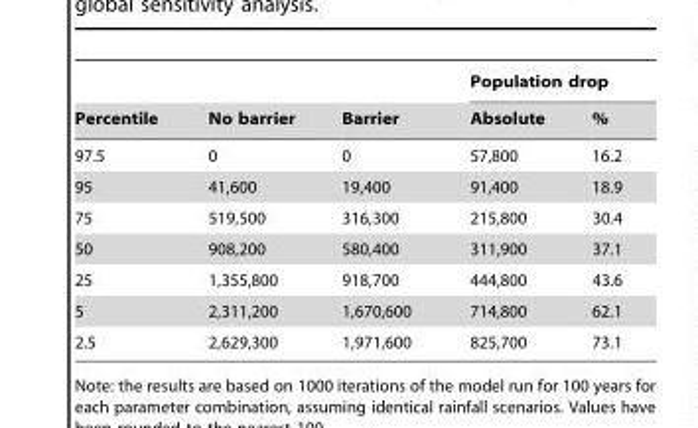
<table><thead><tr><td rowspan="2">Percentile</td><td rowspan="2">No barrier</td><td rowspan="2">Barrier</td><td colspan="2">Population drop</td></tr><tr><td>Absolute</td><td>%</td></tr></thead><tbody><tr><td>97.5</td><td>0</td><td>0</td><td>57,800</td><td>16.2</td></tr><tr><td>95</td><td>41,600</td><td>19,400</td><td>91,400</td><td>18.9</td></tr><tr><td>75</td><td>519,500</td><td>316,300</td><td>215,800</td><td>30.4</td></tr><tr><td>50</td><td>908,200</td><td>580,400</td><td>311,900</td><td>37.1</td></tr><tr><td>25</td><td>1,355,800</td><td>918,700</td><td>444,800</td><td>43.6</td></tr><tr><td>5</td><td>2,311,200</td><td>1,670,600</td><td>714,800</td><td>62.1</td></tr><tr><td>2.5</td><td>2,629,300</td><td>1,971,600</td><td>825,700</td><td>73.1</td></tr></tbody></table>